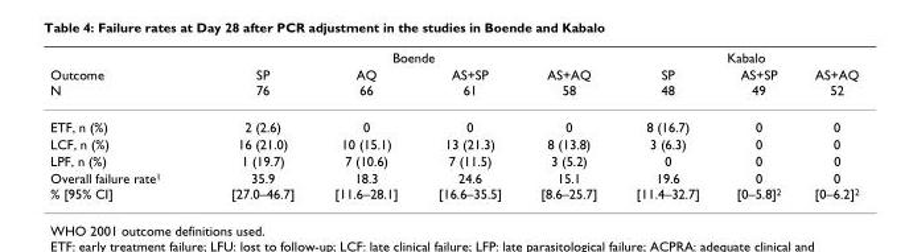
<table><thead><tr><td rowspan="2">Outcome N</td><td colspan="4">Boende</td><td colspan="3">Kabalo</td></tr><tr><td>SP 76</td><td>AQ 66</td><td>AS+SP 61</td><td>AS+AQ 58</td><td>SP 48</td><td>AS+SP 49</td><td>AS+AQ 52</td></tr></thead><tbody><tr><td>ETF, n (%)</td><td>2 (2.6)</td><td>0</td><td>0</td><td>0</td><td>8 (16.7)</td><td>0</td><td>0</td></tr><tr><td>LCF, n (%)</td><td>16 (21.0)</td><td>10 (15.1)</td><td>13 (21.3)</td><td>8 (13.8)</td><td>3 (6.3)</td><td>0</td><td>0</td></tr><tr><td>LPF, n (%)</td><td>1 (19.7)</td><td>7 (10.6)</td><td>7 (11.5)</td><td>3 (5.2)</td><td>0</td><td>0</td><td>0</td></tr><tr><td>Overall failure rate<sup>1</sup> % [95% CI]</td><td>35.9 [27.0–46.7]</td><td>18.3 [11.6–28.1]</td><td>24.6 [16.6–35.5]</td><td>15.1 [8.6–25.7]</td><td>19.6 [11.4–32.7]</td><td>0 [0–5.8]<sup>2</sup></td><td>0 [0–6.2]<sup>2</sup></td></tr></tbody></table>